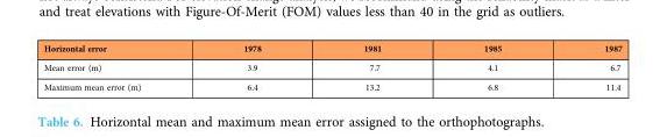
<table><thead><tr><td>Horizontal error</td><td>1978</td><td>1981</td><td>1985</td><td>1987</td></tr></thead><tbody><tr><td>Mean error (m)</td><td>3.9</td><td>7.7</td><td>4.1</td><td>6.7</td></tr><tr><td>Maximum mean error (m)</td><td>6.4</td><td>13.2</td><td>6.8</td><td>11.4</td></tr></tbody></table>